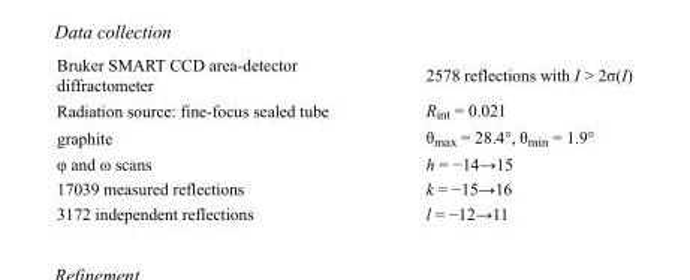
<table><tbody><tr><td>Bruker SMART CCD area-detector diffractometer</td><td>2578 reflections with I &gt; 2σ(I)</td></tr><tr><td>Radiation source: fine-focus sealed tube</td><td>R<sub>int</sub> = 0.021</td></tr><tr><td>graphite</td><td>θ<sub>max</sub> = 28.4°, θ<sub>min</sub> = 1.9°</td></tr><tr><td>φ and ω scans</td><td>h = −14→15</td></tr><tr><td>17039 measured reflections</td><td>k = −15→16</td></tr><tr><td>3172 independent reflections</td><td>l = −12→11</td></tr></tbody></table>